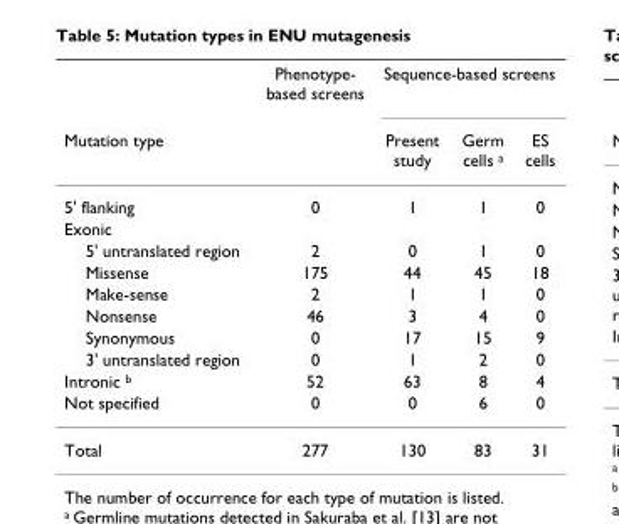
<table><thead><tr><td rowspan="2">Mutation type</td><td rowspan="2">Phenotype- based screens</td><td colspan="3">Sequence-based screens</td></tr><tr><td>Present study</td><td>Germ cells <sup>a</sup></td><td>ES cells</td></tr></thead><tbody><tr><td>5&#x27; flanking</td><td>0</td><td>1</td><td>1</td><td>0</td></tr><tr><td colspan="5">Exonic</td></tr><tr><td>5&#x27; untranslated region</td><td>2</td><td>0</td><td>1</td><td>0</td></tr><tr><td>Missense</td><td>175</td><td>44</td><td>45</td><td>18</td></tr><tr><td>Make-sense</td><td>2</td><td>1</td><td>1</td><td>0</td></tr><tr><td>Nonsense</td><td>46</td><td>3</td><td>4</td><td>0</td></tr><tr><td>Synonymous</td><td>0</td><td>17</td><td>15</td><td>9</td></tr><tr><td>3&#x27; untranslated region</td><td>0</td><td>1</td><td>2</td><td>0</td></tr><tr><td>Intronic <sup>b</sup></td><td>52</td><td>63</td><td>8</td><td>4</td></tr><tr><td>Not specified</td><td>0</td><td>0</td><td>6</td><td>0</td></tr><tr><td>Total</td><td>277</td><td>130</td><td>83</td><td>31</td></tr></tbody></table>